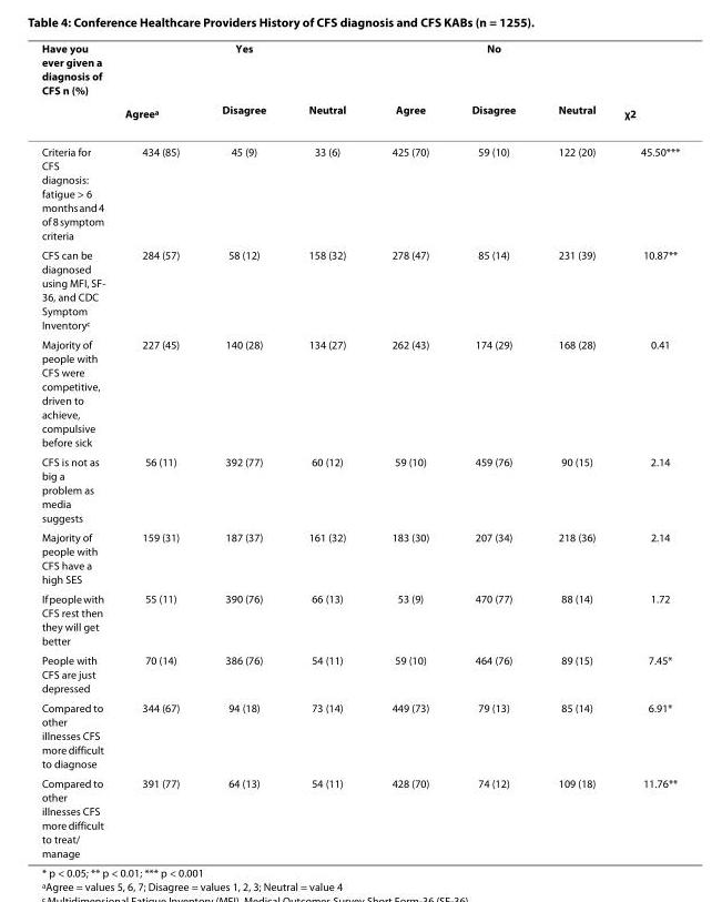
<table><thead><tr><td rowspan="2">Have you ever given a diagnosis of CFS n (%)</td><td rowspan="2">Agree<sup>a</sup></td><td rowspan="2">Yes Disagree</td><td rowspan="2">Neutral</td><td rowspan="2">Agree</td><td rowspan="2">No Disagree</td><td rowspan="2">Neutral</td><td rowspan="2">χ<sup>2</sup></td></tr><tr></tr></thead><tbody><tr><td>Criteria for CFS diagnosis: fatigue &gt; 6 months and 4 of 8 symptom criteria</td><td>434 (85)</td><td>45 (9)</td><td>33 (6)</td><td>425 (70)</td><td>59 (10)</td><td>122 (20)</td><td>45.50***</td></tr><tr><td>CFS can be diagnosed using MFI, SF- 36, and CDC Symptom Inventory<sup>c</sup></td><td>284 (57)</td><td>58 (12)</td><td>158 (32)</td><td>278 (47)</td><td>85 (14)</td><td>231 (39)</td><td>10.87**</td></tr><tr><td>Majority of people with CFS were competitive, driven to achieve, compulsive before sick</td><td>227 (45)</td><td>140 (28)</td><td>134 (27)</td><td>262 (43)</td><td>174 (29)</td><td>168 (28)</td><td>0.41</td></tr><tr><td>CFS is not as big a problem as media suggests</td><td>56 (11)</td><td>392 (77)</td><td>60 (12)</td><td>59 (10)</td><td>459 (76)</td><td>90 (15)</td><td>2.14</td></tr><tr><td>Majority of people with CFS have a high SES</td><td>159 (31)</td><td>187 (37)</td><td>161 (32)</td><td>183 (30)</td><td>207 (34)</td><td>218 (36)</td><td>2.14</td></tr><tr><td>If people with CFS rest then they will get better</td><td>55 (11)</td><td>390 (76)</td><td>66 (13)</td><td>53 (9)</td><td>470 (77)</td><td>88 (14)</td><td>1.72</td></tr><tr><td>People with CFS are just depressed</td><td>70 (14)</td><td>386 (76)</td><td>54 (11)</td><td>59 (10)</td><td>464 (76)</td><td>89 (15)</td><td>7.45*</td></tr><tr><td>Compared to other illnesses CFS more difficult to diagnose</td><td>344 (67)</td><td>94 (18)</td><td>73 (14)</td><td>449 (73)</td><td>79 (13)</td><td>85 (14)</td><td>6.91*</td></tr><tr><td>Compared to other illnesses CFS more difficult to treat/ manage</td><td>391 (77)</td><td>64 (13)</td><td>54 (11)</td><td>428 (70)</td><td>74 (12)</td><td>109 (18)</td><td>11.76**</td></tr></tbody></table>